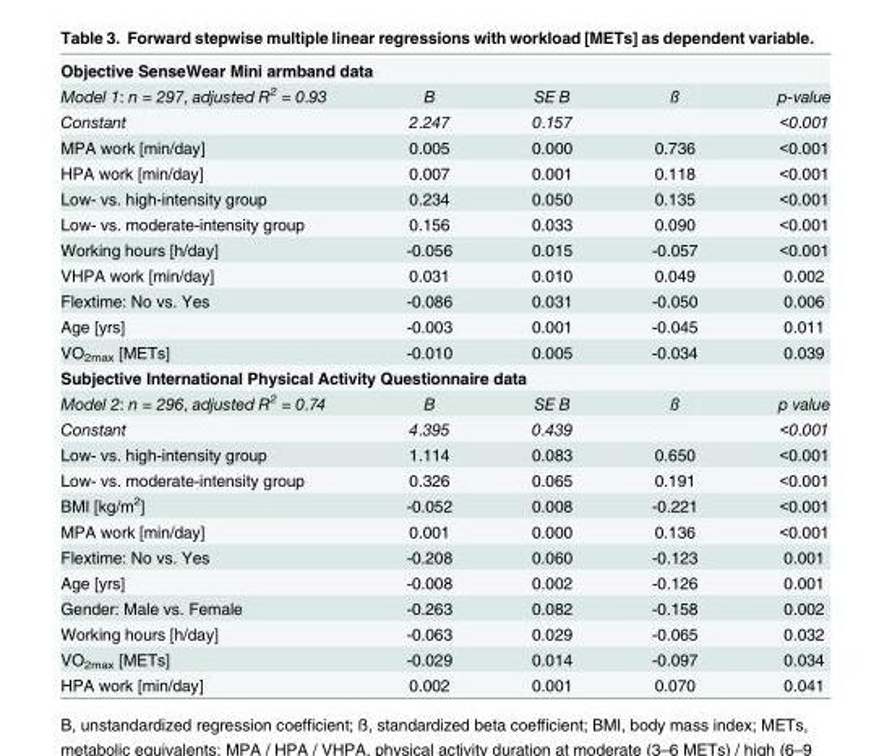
<table><tbody><tr><td colspan="5">Objective SenseWear Mini armband data</td></tr><tr><td>Model 1: n = 297, adjusted R<sup>2</sup> = 0.93</td><td>B</td><td>SE B</td><td>ß</td><td>p-value</td></tr><tr><td>Constant</td><td>2.247</td><td>0.157</td><td></td><td>&lt;0.001</td></tr><tr><td>MPA work [min/day]</td><td>0.005</td><td>0.000</td><td>0.736</td><td>&lt;0.001</td></tr><tr><td>HPA work [min/day]</td><td>0.007</td><td>0.001</td><td>0.118</td><td>&lt;0.001</td></tr><tr><td>Low- vs. high-intensity group</td><td>0.234</td><td>0.050</td><td>0.135</td><td>&lt;0.001</td></tr><tr><td>Low- vs. moderate-intensity group</td><td>0.156</td><td>0.033</td><td>0.090</td><td>&lt;0.001</td></tr><tr><td>Working hours [h/day]</td><td>-0.056</td><td>0.015</td><td>-0.057</td><td>&lt;0.001</td></tr><tr><td>VHPA work [min/day]</td><td>0.031</td><td>0.010</td><td>0.049</td><td>0.002</td></tr><tr><td>Flextime: No vs. Yes</td><td>-0.086</td><td>0.031</td><td>-0.050</td><td>0.006</td></tr><tr><td>Age [yrs]</td><td>-0.003</td><td>0.001</td><td>-0.045</td><td>0.011</td></tr><tr><td>VO<sub>2max</sub> [METs]</td><td>-0.010</td><td>0.005</td><td>-0.034</td><td>0.039</td></tr><tr><td colspan="5">Subjective International Physical Activity Questionnaire data</td></tr><tr><td>Model 2: n = 296, adjusted R<sup>2</sup> = 0.74</td><td>B</td><td>SE B</td><td>ß</td><td>p value</td></tr><tr><td>Constant</td><td>4.395</td><td>0.439</td><td></td><td>&lt;0.001</td></tr><tr><td>Low- vs. high-intensity group</td><td>1.114</td><td>0.083</td><td>0.650</td><td>&lt;0.001</td></tr><tr><td>Low- vs. moderate-intensity group</td><td>0.326</td><td>0.065</td><td>0.191</td><td>&lt;0.001</td></tr><tr><td>BMI [kg/m<sup>2</sup>]</td><td>-0.052</td><td>0.008</td><td>-0.221</td><td>&lt;0.001</td></tr><tr><td>MPA work [min/day]</td><td>0.001</td><td>0.000</td><td>0.136</td><td>&lt;0.001</td></tr><tr><td>Flextime: No vs. Yes</td><td>-0.208</td><td>0.060</td><td>-0.123</td><td>0.001</td></tr><tr><td>Age [yrs]</td><td>-0.008</td><td>0.002</td><td>-0.126</td><td>0.001</td></tr><tr><td>Gender: Male vs. Female</td><td>-0.263</td><td>0.082</td><td>-0.158</td><td>0.002</td></tr><tr><td>Working hours [h/day]</td><td>-0.063</td><td>0.029</td><td>-0.065</td><td>0.032</td></tr><tr><td>VO<sub>2max</sub> [METs]</td><td>-0.029</td><td>0.014</td><td>-0.097</td><td>0.034</td></tr><tr><td>HPA work [min/day]</td><td>0.002</td><td>0.001</td><td>0.070</td><td>0.041</td></tr></tbody></table>